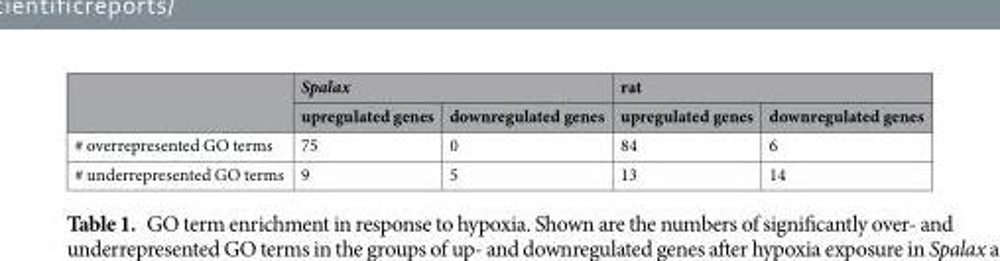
<table><thead><tr><td rowspan="2"></td><td colspan="2">Spalax</td><td colspan="2">rat</td></tr><tr><td>upregulated genes</td><td>downregulated genes</td><td>upregulated genes</td><td>downregulated genes</td></tr></thead><tbody><tr><td># overrepresented GO terms</td><td>75</td><td>0</td><td>84</td><td>6</td></tr><tr><td># underrepresented GO terms</td><td>9</td><td>5</td><td>13</td><td>14</td></tr></tbody></table>